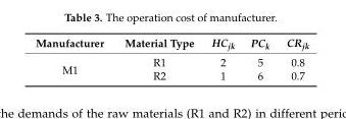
<table><thead><tr><td>Manufacturer</td><td>Material Type</td><td>HC<sub>jk</sub></td><td>PC<sub>k</sub></td><td>CR<sub>jk</sub></td></tr></thead><tbody><tr><td rowspan="2">M1</td><td>R1</td><td>2</td><td>5</td><td>0.8</td></tr><tr><td>R2</td><td>1</td><td>6</td><td>0.7</td></tr></tbody></table>